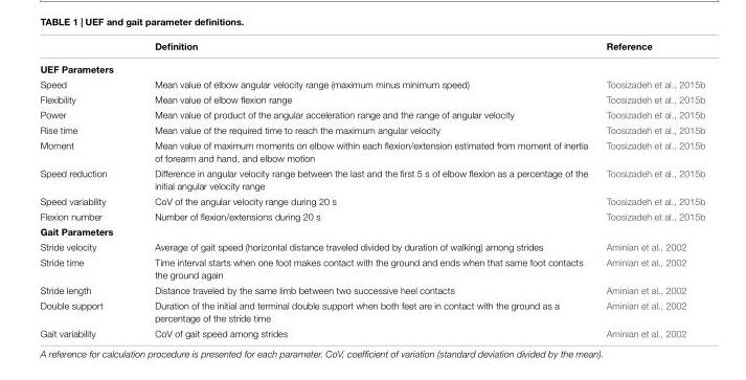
<table><thead><tr><td></td><td>Definition</td><td>Reference</td></tr></thead><tbody><tr><td colspan="3">UEF Parameters</td></tr><tr><td>Speed</td><td>Mean value of elbow angular velocity range (maximum minus minimum speed)</td><td>Toosizadeh et al., 2015b</td></tr><tr><td>Flexibility</td><td>Mean value of elbow flexion range</td><td>Toosizadeh et al., 2015b</td></tr><tr><td>Power</td><td>Mean value of product of the angular acceleration range and the range of angular velocity</td><td>Toosizadeh et al., 2015b</td></tr><tr><td>Rise time</td><td>Mean value of the required time to reach the maximum angular velocity</td><td>Toosizadeh et al., 2015b</td></tr><tr><td>Moment</td><td>Mean value of maximum moments on elbow within each flexion/extension estimated from moment of inertia of forearm and hand, and elbow motion</td><td>Toosizadeh et al., 2015b</td></tr><tr><td>Speed reduction</td><td>Difference in angular velocity range between the last and the first 5 s of elbow flexion as a percentage of the initial angular velocity range</td><td>Toosizadeh et al., 2015b</td></tr><tr><td>Speed variability</td><td>CoV of the angular velocity range during 20 s</td><td>Toosizadeh et al., 2015b</td></tr><tr><td>Flexion number</td><td>Number of flexion/extensions during 20 s</td><td>Toosizadeh et al., 2015b</td></tr><tr><td colspan="3">Gait Parameters</td></tr><tr><td>Stride velocity</td><td>Average of gait speed (horizontal distance traveled divided by duration of walking) among strides</td><td>Aminian et al., 2002</td></tr><tr><td>Stride time</td><td>Time interval starts when one foot makes contact with the ground and ends when that same foot contacts the ground again</td><td>Aminian et al., 2002</td></tr><tr><td>Stride length</td><td>Distance traveled by the same limb between two successive heel contacts</td><td>Aminian et al., 2002</td></tr><tr><td>Double support</td><td>Duration of the initial and terminal double support when both feet are in contact with the ground as a percentage of the stride time</td><td>Aminian et al., 2002</td></tr><tr><td>Gait variability</td><td>CoV of gait speed among strides</td><td>Aminian et al., 2002</td></tr></tbody></table>